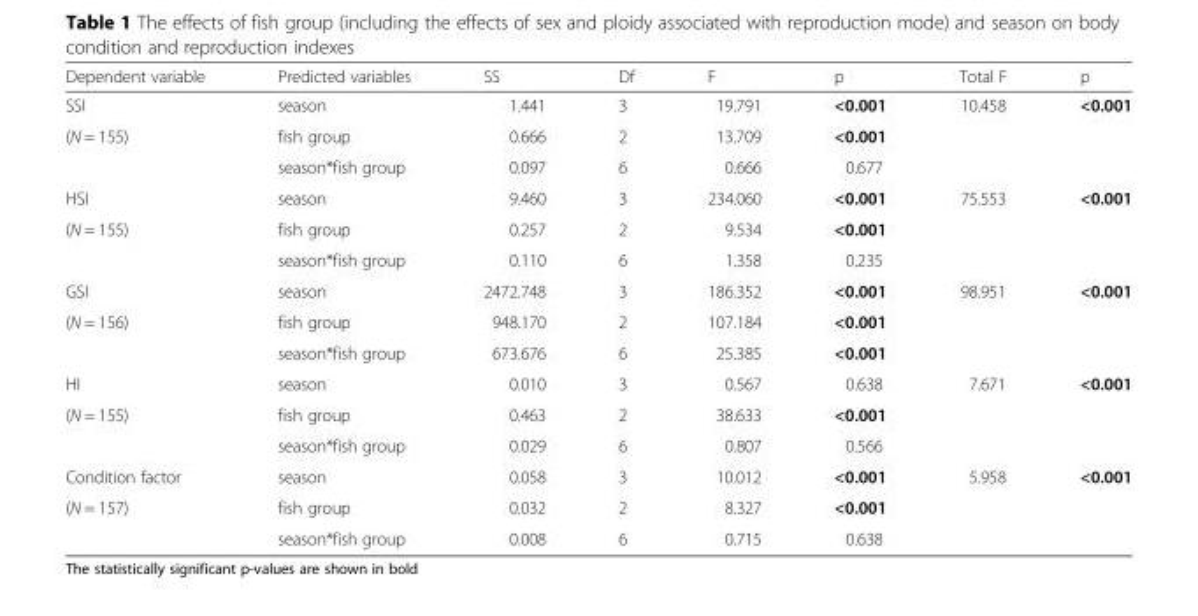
<table><thead><tr><td>Dependent variable</td><td>Predicted variables</td><td>SS</td><td>Df</td><td>F</td><td>p</td><td>Total F</td><td>p</td></tr></thead><tbody><tr><td>SSI</td><td>season</td><td>1.441</td><td>3</td><td>19.791</td><td>&lt;0.001</td><td>10.458</td><td>&lt;0.001</td></tr><tr><td rowspan="2">(N = 155)</td><td>fish group</td><td>0.666</td><td>2</td><td>13.709</td><td>&lt;0.001</td><td></td><td></td></tr><tr><td>season*fish group</td><td>0.097</td><td>6</td><td>0.666</td><td>0.677</td><td></td><td></td></tr><tr><td>HSI</td><td>season</td><td>9.460</td><td>3</td><td>234.060</td><td>&lt;0.001</td><td>75.553</td><td>&lt;0.001</td></tr><tr><td rowspan="2">(N = 155)</td><td>fish group</td><td>0.257</td><td>2</td><td>9.534</td><td>&lt;0.001</td><td></td><td></td></tr><tr><td>season*fish group</td><td>0.110</td><td>6</td><td>1.358</td><td>0.235</td><td></td><td></td></tr><tr><td>GSI</td><td>season</td><td>2472.748</td><td>3</td><td>186.352</td><td>&lt;0.001</td><td>98.951</td><td>&lt;0.001</td></tr><tr><td rowspan="2">(N = 156)</td><td>fish group</td><td>948.170</td><td>2</td><td>107.184</td><td>&lt;0.001</td><td></td><td></td></tr><tr><td>season*fish group</td><td>673.676</td><td>6</td><td>25.385</td><td>&lt;0.001</td><td></td><td></td></tr><tr><td>HI</td><td>season</td><td>0.010</td><td>3</td><td>0.567</td><td>0.638</td><td>7.671</td><td>&lt;0.001</td></tr><tr><td rowspan="2">(N = 155)</td><td>fish group</td><td>0.463</td><td>2</td><td>38.633</td><td>&lt;0.001</td><td></td><td></td></tr><tr><td>season*fish group</td><td>0.029</td><td>6</td><td>0.807</td><td>0.566</td><td></td><td></td></tr><tr><td>Condition factor</td><td>season</td><td>0.058</td><td>3</td><td>10.012</td><td>&lt;0.001</td><td>5.958</td><td>&lt;0.001</td></tr><tr><td rowspan="2">(N = 157)</td><td>fish group</td><td>0.032</td><td>2</td><td>8.327</td><td>&lt;0.001</td><td></td><td></td></tr><tr><td>season*fish group</td><td>0.008</td><td>6</td><td>0.715</td><td>0.638</td><td></td><td></td></tr></tbody></table>